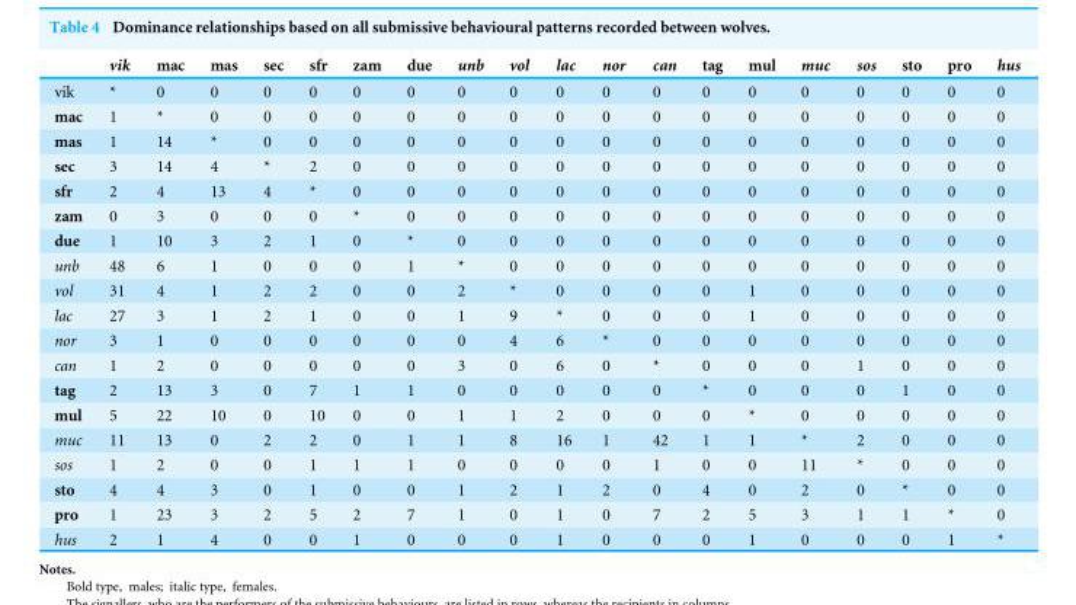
<table><thead><tr><td></td><td>vik</td><td>mac</td><td>mas</td><td>sec</td><td>sfr</td><td>zam</td><td>due</td><td>unb</td><td>vol</td><td>lac</td><td>nor</td><td>can</td><td>tag</td><td>mul</td><td>muc</td><td>sos</td><td>sto</td><td>pro</td><td>hus</td></tr></thead><tbody><tr><td>vik</td><td>*</td><td>0</td><td>0</td><td>0</td><td>0</td><td>0</td><td>0</td><td>0</td><td>0</td><td>0</td><td>0</td><td>0</td><td>0</td><td>0</td><td>0</td><td>0</td><td>0</td><td>0</td><td>0</td></tr><tr><td>mac</td><td>1</td><td>*</td><td>0</td><td>0</td><td>0</td><td>0</td><td>0</td><td>0</td><td>0</td><td>0</td><td>0</td><td>0</td><td>0</td><td>0</td><td>0</td><td>0</td><td>0</td><td>0</td><td>0</td></tr><tr><td>mas</td><td>1</td><td>14</td><td>*</td><td>0</td><td>0</td><td>0</td><td>0</td><td>0</td><td>0</td><td>0</td><td>0</td><td>0</td><td>0</td><td>0</td><td>0</td><td>0</td><td>0</td><td>0</td><td>0</td></tr><tr><td>sec</td><td>3</td><td>14</td><td>4</td><td>*</td><td>2</td><td>0</td><td>0</td><td>0</td><td>0</td><td>0</td><td>0</td><td>0</td><td>0</td><td>0</td><td>0</td><td>0</td><td>0</td><td>0</td><td>0</td></tr><tr><td>sfr</td><td>2</td><td>4</td><td>13</td><td>4</td><td>*</td><td>0</td><td>0</td><td>0</td><td>0</td><td>0</td><td>0</td><td>0</td><td>0</td><td>0</td><td>0</td><td>0</td><td>0</td><td>0</td><td>0</td></tr><tr><td>zam</td><td>0</td><td>3</td><td>0</td><td>0</td><td>0</td><td>*</td><td>0</td><td>0</td><td>0</td><td>0</td><td>0</td><td>0</td><td>0</td><td>0</td><td>0</td><td>0</td><td>0</td><td>0</td><td>0</td></tr><tr><td>due</td><td>1</td><td>10</td><td>3</td><td>2</td><td>1</td><td>0</td><td>*</td><td>0</td><td>0</td><td>0</td><td>0</td><td>0</td><td>0</td><td>0</td><td>0</td><td>0</td><td>0</td><td>0</td><td>0</td></tr><tr><td>unb</td><td>48</td><td>6</td><td>1</td><td>0</td><td>0</td><td>0</td><td>1</td><td>*</td><td>0</td><td>0</td><td>0</td><td>0</td><td>0</td><td>0</td><td>0</td><td>0</td><td>0</td><td>0</td><td>0</td></tr><tr><td>vol</td><td>31</td><td>4</td><td>1</td><td>2</td><td>2</td><td>0</td><td>0</td><td>2</td><td>*</td><td>0</td><td>0</td><td>0</td><td>0</td><td>1</td><td>0</td><td>0</td><td>0</td><td>0</td><td>0</td></tr><tr><td>lac</td><td>27</td><td>3</td><td>1</td><td>2</td><td>1</td><td>0</td><td>0</td><td>1</td><td>9</td><td>*</td><td>0</td><td>0</td><td>0</td><td>1</td><td>0</td><td>0</td><td>0</td><td>0</td><td>0</td></tr><tr><td>nor</td><td>3</td><td>1</td><td>0</td><td>0</td><td>0</td><td>0</td><td>0</td><td>0</td><td>4</td><td>6</td><td>*</td><td>0</td><td>0</td><td>0</td><td>0</td><td>0</td><td>0</td><td>0</td><td>0</td></tr><tr><td>can</td><td>1</td><td>2</td><td>0</td><td>0</td><td>0</td><td>0</td><td>0</td><td>3</td><td>0</td><td>6</td><td>0</td><td>*</td><td>0</td><td>0</td><td>0</td><td>1</td><td>0</td><td>0</td><td>0</td></tr><tr><td>tag</td><td>2</td><td>13</td><td>3</td><td>0</td><td>7</td><td>1</td><td>1</td><td>0</td><td>0</td><td>0</td><td>0</td><td>0</td><td>*</td><td>0</td><td>0</td><td>0</td><td>1</td><td>0</td><td>0</td></tr><tr><td>mul</td><td>5</td><td>22</td><td>10</td><td>0</td><td>10</td><td>0</td><td>0</td><td>1</td><td>1</td><td>2</td><td>0</td><td>0</td><td>0</td><td>*</td><td>0</td><td>0</td><td>0</td><td>0</td><td>0</td></tr><tr><td>muc</td><td>11</td><td>13</td><td>0</td><td>2</td><td>2</td><td>0</td><td>1</td><td>1</td><td>8</td><td>16</td><td>1</td><td>42</td><td>1</td><td>1</td><td>*</td><td>2</td><td>0</td><td>0</td><td>0</td></tr><tr><td>sos</td><td>1</td><td>2</td><td>0</td><td>0</td><td>1</td><td>1</td><td>1</td><td>0</td><td>0</td><td>0</td><td>0</td><td>1</td><td>0</td><td>0</td><td>11</td><td>*</td><td>0</td><td>0</td><td>0</td></tr><tr><td>sto</td><td>4</td><td>4</td><td>3</td><td>0</td><td>1</td><td>0</td><td>0</td><td>1</td><td>2</td><td>1</td><td>2</td><td>0</td><td>4</td><td>0</td><td>2</td><td>0</td><td>*</td><td>0</td><td>0</td></tr><tr><td>pro</td><td>1</td><td>23</td><td>3</td><td>2</td><td>5</td><td>2</td><td>7</td><td>1</td><td>0</td><td>1</td><td>0</td><td>7</td><td>2</td><td>5</td><td>3</td><td>1</td><td>1</td><td>*</td><td>0</td></tr><tr><td>hus</td><td>2</td><td>1</td><td>4</td><td>0</td><td>0</td><td>1</td><td>0</td><td>0</td><td>0</td><td>1</td><td>0</td><td>0</td><td>0</td><td>1</td><td>0</td><td>0</td><td>0</td><td>1</td><td>*</td></tr></tbody></table>